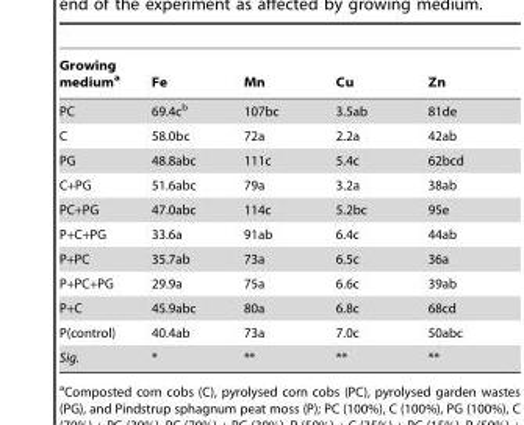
<table><thead><tr><td>Growing medium<sup>a</sup></td><td>Fe</td><td>Mn</td><td>Cu</td><td>Zn</td></tr></thead><tbody><tr><td>PC</td><td>69.4c<sup>b</sup></td><td>107bc</td><td>3.5ab</td><td>81de</td></tr><tr><td>C</td><td>58.0bc</td><td>72a</td><td>2.2a</td><td>42ab</td></tr><tr><td>PG</td><td>48.8abc</td><td>111c</td><td>5.4c</td><td>62bcd</td></tr><tr><td>C+PG</td><td>51.6abc</td><td>79a</td><td>3.2a</td><td>38ab</td></tr><tr><td>PC+PG</td><td>47.0abc</td><td>114c</td><td>5.2bc</td><td>95e</td></tr><tr><td>P+C+PG</td><td>33.6a</td><td>91ab</td><td>6.4c</td><td>44ab</td></tr><tr><td>P+PC</td><td>35.7ab</td><td>73a</td><td>6.5c</td><td>36a</td></tr><tr><td>P+PC+PG</td><td>29.9a</td><td>75a</td><td>6.6c</td><td>39ab</td></tr><tr><td>P+C</td><td>45.9abc</td><td>80a</td><td>6.8c</td><td>68cd</td></tr><tr><td>P(control)</td><td>40.4ab</td><td>73a</td><td>7.0c</td><td>50abc</td></tr><tr><td>Sig.</td><td>*</td><td>**</td><td>**</td><td>**</td></tr></tbody></table>